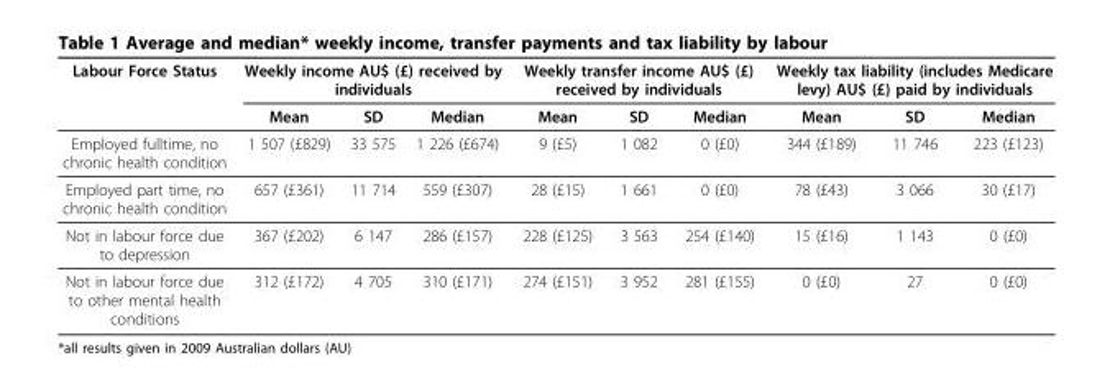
<table><thead><tr><td rowspan="2">Labour Force Status</td><td colspan="3">Weekly income AU$ (£) received by individuals</td><td colspan="3">Weekly transfer income AU$ (£) received by individuals</td><td colspan="3">Weekly tax liability (includes Medicare levy) AU$ (£) paid by individuals</td></tr><tr><td>Mean</td><td>SD</td><td>Median</td><td>Mean</td><td>SD</td><td>Median</td><td>Mean</td><td>SD</td><td>Median</td></tr></thead><tbody><tr><td>Employed fulltime, no chronic health condition</td><td>1 507 (£829)</td><td>33 575</td><td>1 226 (£674)</td><td>9 (£5)</td><td>1 082</td><td>0 (£0)</td><td>344 (£189)</td><td>11 746</td><td>223 (£123)</td></tr><tr><td>Employed part time, no chronic health condition</td><td>657 (£361)</td><td>11 714</td><td>559 (£307)</td><td>28 (£15)</td><td>1 661</td><td>0 (£0)</td><td>78 (£43)</td><td>3 066</td><td>30 (£17)</td></tr><tr><td>Not in labour force due to depression</td><td>367 (£202)</td><td>6 147</td><td>286 (£157)</td><td>228 (£125)</td><td>3 563</td><td>254 (£140)</td><td>15 (£16)</td><td>1 143</td><td>0 (£0)</td></tr><tr><td>Not in labour force due to other mental health conditions</td><td>312 (£172)</td><td>4 705</td><td>310 (£171)</td><td>274 (£151)</td><td>3 952</td><td>281 (£155)</td><td>0 (£0)</td><td>27</td><td>0 (£0)</td></tr></tbody></table>